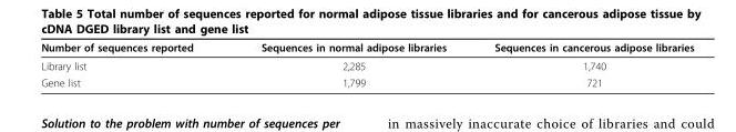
<table><thead><tr><td>Number of sequences reported</td><td>Sequences in normal adipose libraries</td><td>Sequences in cancerous adipose libraries</td></tr></thead><tbody><tr><td>Library list</td><td>2,285</td><td>1,740</td></tr><tr><td>Gene list</td><td>1,799</td><td>721</td></tr></tbody></table>